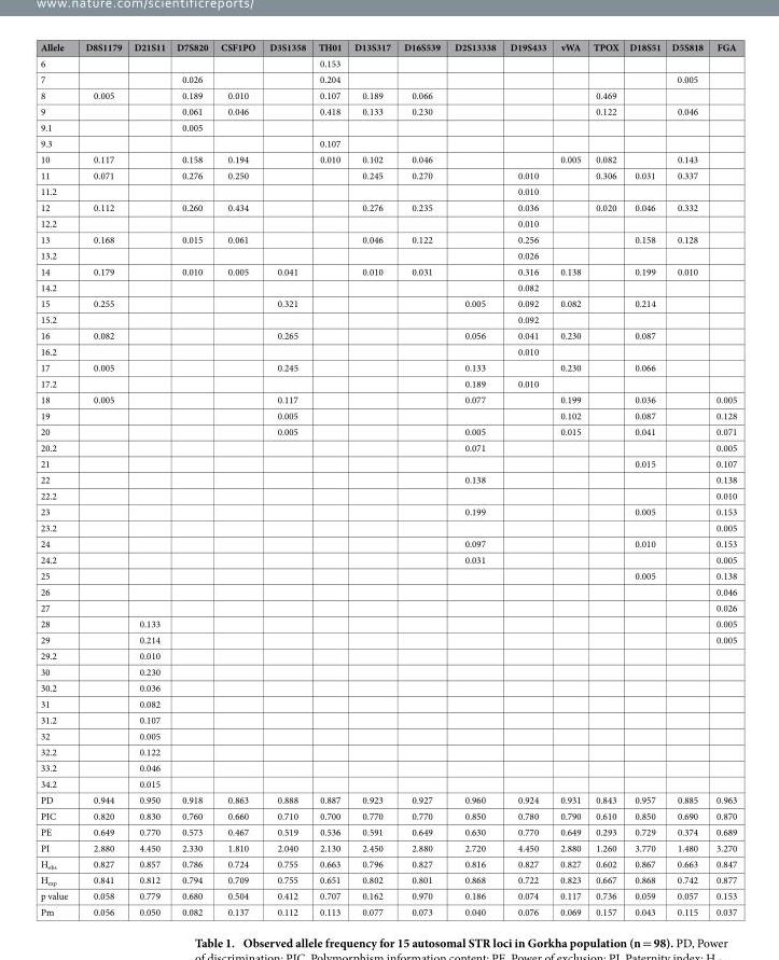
<table><thead><tr><td>Allele</td><td>D8S1179</td><td>D21S11</td><td>D7S820</td><td>CSF1PO</td><td>D3S1358</td><td>TH01</td><td>D13S317</td><td>D16S539</td><td>D2S13338</td><td>D19S433</td><td>vWA</td><td>TPOX</td><td>D18S51</td><td>D5S818</td><td>FGA</td></tr></thead><tbody><tr><td>6</td><td></td><td></td><td></td><td></td><td></td><td>0.153</td><td></td><td></td><td></td><td></td><td></td><td></td><td></td><td></td><td></td></tr><tr><td>7</td><td></td><td></td><td>0.026</td><td></td><td></td><td>0.204</td><td></td><td></td><td></td><td></td><td></td><td></td><td></td><td>0.005</td><td></td></tr><tr><td>8</td><td>0.005</td><td></td><td>0.189</td><td>0.010</td><td></td><td>0.107</td><td>0.189</td><td>0.066</td><td></td><td></td><td></td><td>0.469</td><td></td><td></td><td></td></tr><tr><td>9</td><td></td><td></td><td>0.061</td><td>0.046</td><td></td><td>0.418</td><td>0.133</td><td>0.230</td><td></td><td></td><td></td><td>0.122</td><td></td><td>0.046</td><td></td></tr><tr><td>9.1</td><td></td><td></td><td>0.005</td><td></td><td></td><td></td><td></td><td></td><td></td><td></td><td></td><td></td><td></td><td></td><td></td></tr><tr><td>9.3</td><td></td><td></td><td></td><td></td><td></td><td>0.107</td><td></td><td></td><td></td><td></td><td></td><td></td><td></td><td></td><td></td></tr><tr><td>10</td><td>0.117</td><td></td><td>0.158</td><td>0.194</td><td></td><td>0.010</td><td>0.102</td><td>0.046</td><td></td><td></td><td>0.005</td><td>0.082</td><td></td><td>0.143</td><td></td></tr><tr><td>11</td><td>0.071</td><td></td><td>0.276</td><td>0.250</td><td></td><td></td><td>0.245</td><td>0.270</td><td></td><td>0.010</td><td></td><td>0.306</td><td>0.031</td><td>0.337</td><td></td></tr><tr><td>11.2</td><td></td><td></td><td></td><td></td><td></td><td></td><td></td><td></td><td></td><td>0.010</td><td></td><td></td><td></td><td></td><td></td></tr><tr><td>12</td><td>0.112</td><td></td><td>0.260</td><td>0.434</td><td></td><td></td><td>0.276</td><td>0.235</td><td></td><td>0.036</td><td></td><td>0.020</td><td>0.046</td><td>0.332</td><td></td></tr><tr><td>12.2</td><td></td><td></td><td></td><td></td><td></td><td></td><td></td><td></td><td></td><td>0.010</td><td></td><td></td><td></td><td></td><td></td></tr><tr><td>13</td><td>0.168</td><td></td><td>0.015</td><td>0.061</td><td></td><td></td><td>0.046</td><td>0.122</td><td></td><td>0.256</td><td></td><td></td><td>0.158</td><td>0.128</td><td></td></tr><tr><td>13.2</td><td></td><td></td><td></td><td></td><td></td><td></td><td></td><td></td><td></td><td>0.026</td><td></td><td></td><td></td><td></td><td></td></tr><tr><td>14</td><td>0.179</td><td></td><td>0.010</td><td>0.005</td><td>0.041</td><td></td><td>0.010</td><td>0.031</td><td></td><td>0.316</td><td>0.138</td><td></td><td>0.199</td><td>0.010</td><td></td></tr><tr><td>14.2</td><td></td><td></td><td></td><td></td><td></td><td></td><td></td><td></td><td></td><td>0.082</td><td></td><td></td><td></td><td></td><td></td></tr><tr><td>15</td><td>0.255</td><td></td><td></td><td></td><td>0.321</td><td></td><td></td><td></td><td>0.005</td><td>0.092</td><td>0.082</td><td></td><td>0.214</td><td></td><td></td></tr><tr><td>15.2</td><td></td><td></td><td></td><td></td><td></td><td></td><td></td><td></td><td></td><td>0.092</td><td></td><td></td><td></td><td></td><td></td></tr><tr><td>16</td><td>0.082</td><td></td><td></td><td></td><td>0.265</td><td></td><td></td><td></td><td>0.056</td><td>0.041</td><td>0.230</td><td></td><td>0.087</td><td></td><td></td></tr><tr><td>16.2</td><td></td><td></td><td></td><td></td><td></td><td></td><td></td><td></td><td></td><td>0.010</td><td></td><td></td><td></td><td></td><td></td></tr><tr><td>17</td><td>0.005</td><td></td><td></td><td></td><td>0.245</td><td></td><td></td><td></td><td>0.133</td><td></td><td>0.230</td><td></td><td>0.066</td><td></td><td></td></tr><tr><td>17.2</td><td></td><td></td><td></td><td></td><td></td><td></td><td></td><td></td><td>0.189</td><td>0.010</td><td></td><td></td><td></td><td></td><td></td></tr><tr><td>18</td><td>0.005</td><td></td><td></td><td></td><td>0.117</td><td></td><td></td><td></td><td>0.077</td><td></td><td>0.199</td><td></td><td>0.036</td><td></td><td>0.005</td></tr><tr><td>19</td><td></td><td></td><td></td><td></td><td>0.005</td><td></td><td></td><td></td><td></td><td></td><td>0.102</td><td></td><td>0.087</td><td></td><td>0.128</td></tr><tr><td>20</td><td></td><td></td><td></td><td></td><td>0.005</td><td></td><td></td><td></td><td>0.005</td><td></td><td>0.015</td><td></td><td>0.041</td><td></td><td>0.071</td></tr><tr><td>20.2</td><td></td><td></td><td></td><td></td><td></td><td></td><td></td><td></td><td>0.071</td><td></td><td></td><td></td><td></td><td></td><td>0.005</td></tr><tr><td>21</td><td></td><td></td><td></td><td></td><td></td><td></td><td></td><td></td><td></td><td></td><td></td><td></td><td>0.015</td><td></td><td>0.107</td></tr><tr><td>22</td><td></td><td></td><td></td><td></td><td></td><td></td><td></td><td></td><td>0.138</td><td></td><td></td><td></td><td></td><td></td><td>0.138</td></tr><tr><td>22.2</td><td></td><td></td><td></td><td></td><td></td><td></td><td></td><td></td><td></td><td></td><td></td><td></td><td></td><td></td><td>0.010</td></tr><tr><td>23</td><td></td><td></td><td></td><td></td><td></td><td></td><td></td><td></td><td>0.199</td><td></td><td></td><td></td><td>0.005</td><td></td><td>0.153</td></tr><tr><td>23.2</td><td></td><td></td><td></td><td></td><td></td><td></td><td></td><td></td><td></td><td></td><td></td><td></td><td></td><td></td><td>0.005</td></tr><tr><td>24</td><td></td><td></td><td></td><td></td><td></td><td></td><td></td><td></td><td>0.097</td><td></td><td></td><td></td><td>0.010</td><td></td><td>0.153</td></tr><tr><td>24.2</td><td></td><td></td><td></td><td></td><td></td><td></td><td></td><td></td><td>0.031</td><td></td><td></td><td></td><td></td><td></td><td>0.005</td></tr><tr><td>25</td><td></td><td></td><td></td><td></td><td></td><td></td><td></td><td></td><td></td><td></td><td></td><td></td><td>0.005</td><td></td><td>0.138</td></tr><tr><td>26</td><td></td><td></td><td></td><td></td><td></td><td></td><td></td><td></td><td></td><td></td><td></td><td></td><td></td><td></td><td>0.046</td></tr><tr><td>27</td><td></td><td></td><td></td><td></td><td></td><td></td><td></td><td></td><td></td><td></td><td></td><td></td><td></td><td></td><td>0.026</td></tr><tr><td>28</td><td></td><td>0.133</td><td></td><td></td><td></td><td></td><td></td><td></td><td></td><td></td><td></td><td></td><td></td><td></td><td>0.005</td></tr><tr><td>29</td><td></td><td>0.214</td><td></td><td></td><td></td><td></td><td></td><td></td><td></td><td></td><td></td><td></td><td></td><td></td><td>0.005</td></tr><tr><td>29.2</td><td></td><td>0.010</td><td></td><td></td><td></td><td></td><td></td><td></td><td></td><td></td><td></td><td></td><td></td><td></td><td></td></tr><tr><td>30</td><td></td><td>0.230</td><td></td><td></td><td></td><td></td><td></td><td></td><td></td><td></td><td></td><td></td><td></td><td></td><td></td></tr><tr><td>30.2</td><td></td><td>0.036</td><td></td><td></td><td></td><td></td><td></td><td></td><td></td><td></td><td></td><td></td><td></td><td></td><td></td></tr><tr><td>31</td><td></td><td>0.082</td><td></td><td></td><td></td><td></td><td></td><td></td><td></td><td></td><td></td><td></td><td></td><td></td><td></td></tr><tr><td>31.2</td><td></td><td>0.107</td><td></td><td></td><td></td><td></td><td></td><td></td><td></td><td></td><td></td><td></td><td></td><td></td><td></td></tr><tr><td>32</td><td></td><td>0.005</td><td></td><td></td><td></td><td></td><td></td><td></td><td></td><td></td><td></td><td></td><td></td><td></td><td></td></tr><tr><td>32.2</td><td></td><td>0.122</td><td></td><td></td><td></td><td></td><td></td><td></td><td></td><td></td><td></td><td></td><td></td><td></td><td></td></tr><tr><td>33.2</td><td></td><td>0.046</td><td></td><td></td><td></td><td></td><td></td><td></td><td></td><td></td><td></td><td></td><td></td><td></td><td></td></tr><tr><td>34.2</td><td></td><td>0.015</td><td></td><td></td><td></td><td></td><td></td><td></td><td></td><td></td><td></td><td></td><td></td><td></td><td></td></tr><tr><td>PD</td><td>0.944</td><td>0.950</td><td>0.918</td><td>0.863</td><td>0.888</td><td>0.887</td><td>0.923</td><td>0.927</td><td>0.960</td><td>0.924</td><td>0.931</td><td>0.843</td><td>0.957</td><td>0.885</td><td>0.963</td></tr><tr><td>PIC</td><td>0.820</td><td>0.830</td><td>0.760</td><td>0.660</td><td>0.710</td><td>0.700</td><td>0.770</td><td>0.770</td><td>0.850</td><td>0.780</td><td>0.790</td><td>0.610</td><td>0.850</td><td>0.690</td><td>0.870</td></tr><tr><td>PE</td><td>0.649</td><td>0.770</td><td>0.573</td><td>0.467</td><td>0.519</td><td>0.536</td><td>0.591</td><td>0.649</td><td>0.630</td><td>0.770</td><td>0.649</td><td>0.293</td><td>0.729</td><td>0.374</td><td>0.689</td></tr><tr><td>PI</td><td>2.880</td><td>4.450</td><td>2.330</td><td>1.810</td><td>2.040</td><td>2.130</td><td>2.450</td><td>2.880</td><td>2.720</td><td>4.450</td><td>2.880</td><td>1.260</td><td>3.770</td><td>1.480</td><td>3.270</td></tr><tr><td>H<sub>obs</sub></td><td>0.827</td><td>0.857</td><td>0.786</td><td>0.724</td><td>0.755</td><td>0.663</td><td>0.796</td><td>0.827</td><td>0.816</td><td>0.827</td><td>0.827</td><td>0.602</td><td>0.867</td><td>0.663</td><td>0.847</td></tr><tr><td>H<sub>exp</sub></td><td>0.841</td><td>0.812</td><td>0.794</td><td>0.709</td><td>0.755</td><td>0.651</td><td>0.802</td><td>0.801</td><td>0.868</td><td>0.722</td><td>0.823</td><td>0.667</td><td>0.868</td><td>0.742</td><td>0.877</td></tr><tr><td>p value</td><td>0.058</td><td>0.779</td><td>0.680</td><td>0.504</td><td>0.412</td><td>0.707</td><td>0.162</td><td>0.970</td><td>0.186</td><td>0.074</td><td>0.117</td><td>0.736</td><td>0.059</td><td>0.057</td><td>0.153</td></tr><tr><td>Pm</td><td>0.056</td><td>0.050</td><td>0.082</td><td>0.137</td><td>0.112</td><td>0.113</td><td>0.077</td><td>0.073</td><td>0.040</td><td>0.076</td><td>0.069</td><td>0.157</td><td>0.043</td><td>0.115</td><td>0.037</td></tr></tbody></table>